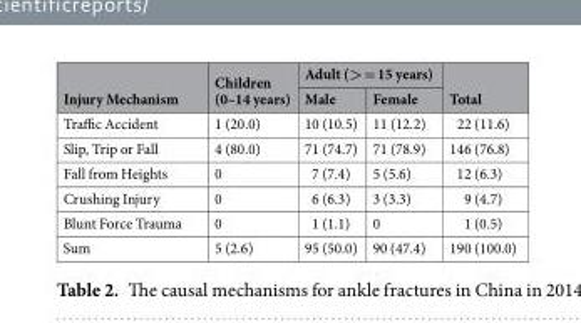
<table><thead><tr><td rowspan="2">Injury Mechanism</td><td rowspan="2">Children (0–14 years)</td><td colspan="2">Adult (&gt; = 15 years)</td><td rowspan="2">Total</td></tr><tr><td>Male</td><td>Female</td></tr></thead><tbody><tr><td>Traffic Accident</td><td>1 (20.0)</td><td>10 (10.5)</td><td>11 (12.2)</td><td>22 (11.6)</td></tr><tr><td>Slip, Trip or Fall</td><td>4 (80.0)</td><td>71 (74.7)</td><td>71 (78.9)</td><td>146 (76.8)</td></tr><tr><td>Fall from Heights</td><td>0</td><td>7 (7.4)</td><td>5 (5.6)</td><td>12 (6.3)</td></tr><tr><td>Crushing Injury</td><td>0</td><td>6 (6.3)</td><td>3 (3.3)</td><td>9 (4.7)</td></tr><tr><td>Blunt Force Trauma</td><td>0</td><td>1 (1.1)</td><td>0</td><td>1 (0.5)</td></tr><tr><td>Sum</td><td>5 (2.6)</td><td>95 (50.0)</td><td>90 (47.4)</td><td>190 (100.0)</td></tr></tbody></table>